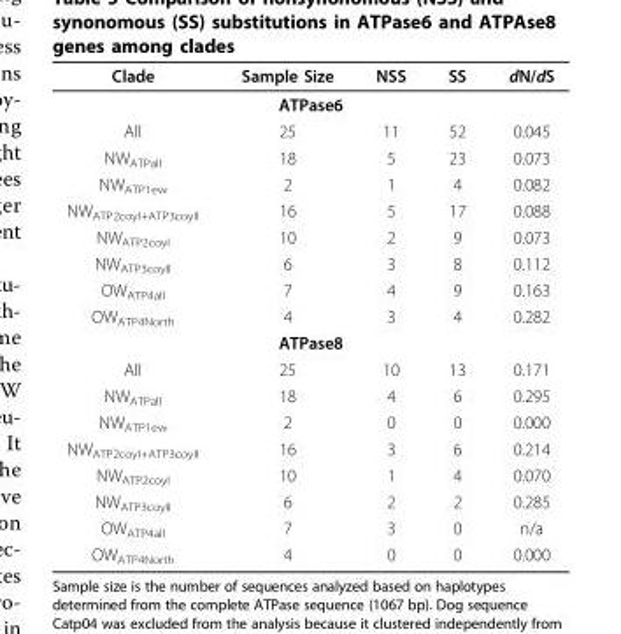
<table><thead><tr><td>Clade</td><td>Sample Size</td><td>NSS</td><td>SS</td><td>dN/dS</td></tr></thead><tbody><tr><td colspan="5">ATPase6</td></tr><tr><td>All</td><td>25</td><td>11</td><td>52</td><td>0.045</td></tr><tr><td>NW<sub>ATPall</sub></td><td>18</td><td>5</td><td>23</td><td>0.073</td></tr><tr><td>NW<sub>ATP1ew</sub></td><td>2</td><td>1</td><td>4</td><td>0.082</td></tr><tr><td>NW<sub>ATP2coyI+ATP3coyII</sub></td><td>16</td><td>5</td><td>17</td><td>0.088</td></tr><tr><td>NW<sub>ATP2coyI</sub></td><td>10</td><td>2</td><td>9</td><td>0.073</td></tr><tr><td>NW<sub>ATP3coyII</sub></td><td>6</td><td>3</td><td>8</td><td>0.112</td></tr><tr><td>OW<sub>ATP4all</sub></td><td>7</td><td>4</td><td>9</td><td>0.163</td></tr><tr><td>OW<sub>ATP4North</sub></td><td>4</td><td>3</td><td>4</td><td>0.282</td></tr><tr><td colspan="5">ATPase8</td></tr><tr><td>All</td><td>25</td><td>10</td><td>13</td><td>0.171</td></tr><tr><td>NW<sub>ATPall</sub></td><td>18</td><td>4</td><td>6</td><td>0.295</td></tr><tr><td>NW<sub>ATP1ew</sub></td><td>2</td><td>0</td><td>0</td><td>0.000</td></tr><tr><td>NW<sub>ATP2coyI+ATP3coyII</sub></td><td>16</td><td>3</td><td>6</td><td>0.214</td></tr><tr><td>NW<sub>ATP2coyI</sub></td><td>10</td><td>1</td><td>4</td><td>0.070</td></tr><tr><td>NW<sub>ATP3coyII</sub></td><td>6</td><td>2</td><td>2</td><td>0.285</td></tr><tr><td>OW<sub>ATP4all</sub></td><td>7</td><td>3</td><td>0</td><td>n/a</td></tr><tr><td>OW<sub>ATP4North</sub></td><td>4</td><td>0</td><td>0</td><td>0.000</td></tr></tbody></table>